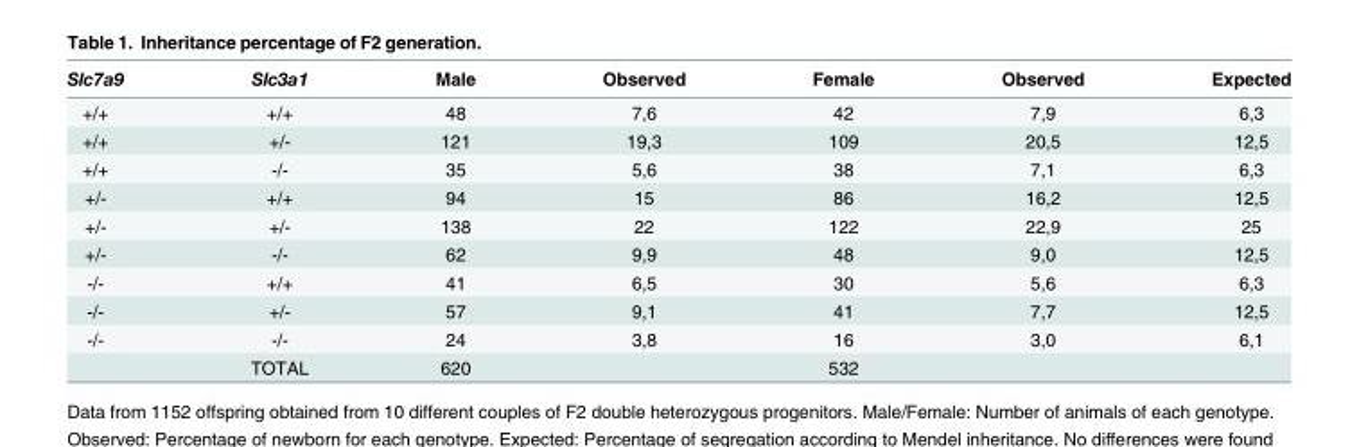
<table><thead><tr><td>Slc7a9</td><td>Slc3a1</td><td>Male</td><td>Observed</td><td>Female</td><td>Observed</td><td>Expected</td></tr></thead><tbody><tr><td>+/+</td><td>+/+</td><td>48</td><td>7,6</td><td>42</td><td>7,9</td><td>6,3</td></tr><tr><td>+/+</td><td>+/-</td><td>121</td><td>19,3</td><td>109</td><td>20,5</td><td>12,5</td></tr><tr><td>+/+</td><td>-/-</td><td>35</td><td>5,6</td><td>38</td><td>7,1</td><td>6,3</td></tr><tr><td>+/-</td><td>+/+</td><td>94</td><td>15</td><td>86</td><td>16,2</td><td>12,5</td></tr><tr><td>+/-</td><td>+/-</td><td>138</td><td>22</td><td>122</td><td>22,9</td><td>25</td></tr><tr><td>+/-</td><td>-/-</td><td>62</td><td>9,9</td><td>48</td><td>9,0</td><td>12,5</td></tr><tr><td>-/-</td><td>+/+</td><td>41</td><td>6,5</td><td>30</td><td>5,6</td><td>6,3</td></tr><tr><td>-/-</td><td>+/-</td><td>57</td><td>9,1</td><td>41</td><td>7,7</td><td>12,5</td></tr><tr><td rowspan="2">-/-</td><td>-/-</td><td>24</td><td>3,8</td><td>16</td><td>3,0</td><td>6,1</td></tr><tr><td>TOTAL</td><td>620</td><td></td><td>532</td><td></td><td></td></tr></tbody></table>